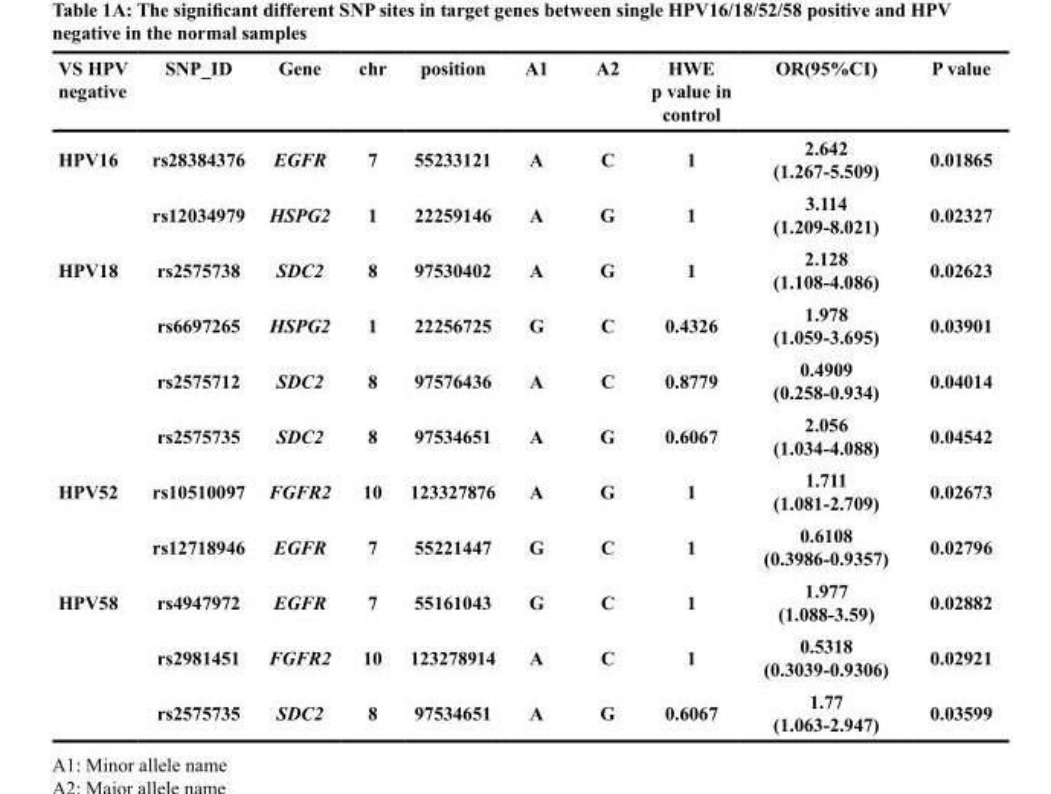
<table><thead><tr><td>VS HPV negative</td><td>SNP_ID</td><td>Gene</td><td>chr</td><td>position</td><td>A1</td><td>A2</td><td>HWE p value in control</td><td>OR(95%CI)</td><td>P value</td></tr></thead><tbody><tr><td rowspan="2">HPV16</td><td>rs28384376</td><td>EGFR</td><td>7</td><td>55233121</td><td>A</td><td>C</td><td>1</td><td>2.642 (1.267-5.509)</td><td>0.01865</td></tr><tr><td>rs12034979</td><td>HSPG2</td><td>1</td><td>22259146</td><td>A</td><td>G</td><td>1</td><td>3.114 (1.209-8.021)</td><td>0.02327</td></tr><tr><td rowspan="4">HPV18</td><td>rs2575738</td><td>SDC2</td><td>8</td><td>97530402</td><td>A</td><td>G</td><td>1</td><td>2.128 (1.108-4.086)</td><td>0.02623</td></tr><tr><td>rs6697265</td><td>HSPG2</td><td>1</td><td>22256725</td><td>G</td><td>C</td><td>0.4326</td><td>1.978 (1.059-3.695)</td><td>0.03901</td></tr><tr><td>rs2575712</td><td>SDC2</td><td>8</td><td>97576436</td><td>A</td><td>C</td><td>0.8779</td><td>0.4909 (0.258-0.934)</td><td>0.04014</td></tr><tr><td>rs2575735</td><td>SDC2</td><td>8</td><td>97534651</td><td>A</td><td>G</td><td>0.6067</td><td>2.056 (1.034-4.088)</td><td>0.04542</td></tr><tr><td rowspan="2">HPV52</td><td>rs10510097</td><td>FGFR2</td><td>10</td><td>123327876</td><td>A</td><td>G</td><td>1</td><td>1.711 (1.081-2.709)</td><td>0.02673</td></tr><tr><td>rs12718946</td><td>EGFR</td><td>7</td><td>55221447</td><td>G</td><td>C</td><td>1</td><td>0.6108 (0.3986-0.9357)</td><td>0.02796</td></tr><tr><td rowspan="3">HPV58</td><td>rs4947972</td><td>EGFR</td><td>7</td><td>55161043</td><td>G</td><td>C</td><td>1</td><td>1.977 (1.088-3.59)</td><td>0.02882</td></tr><tr><td>rs2981451</td><td>FGFR2</td><td>10</td><td>123278914</td><td>A</td><td>C</td><td>1</td><td>0.5318 (0.3039-0.9306)</td><td>0.02921</td></tr><tr><td>rs2575735</td><td>SDC2</td><td>8</td><td>97534651</td><td>A</td><td>G</td><td>0.6067</td><td>1.77 (1.063-2.947)</td><td>0.03599</td></tr></tbody></table>